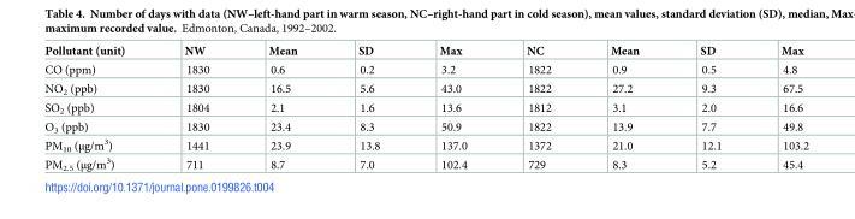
<table><thead><tr><td>Pollutant (unit)</td><td>NW</td><td>Mean</td><td>SD</td><td>Max</td><td>NC</td><td>Mean</td><td>SD</td><td>Max</td></tr></thead><tbody><tr><td>CO (ppm)</td><td>1830</td><td>0.6</td><td>0.2</td><td>3.2</td><td>1822</td><td>0.9</td><td>0.5</td><td>4.8</td></tr><tr><td>NO<sub>2</sub> (ppb)</td><td>1830</td><td>16.5</td><td>5.6</td><td>43.0</td><td>1822</td><td>27.2</td><td>9.3</td><td>67.5</td></tr><tr><td>SO<sub>2</sub> (ppb)</td><td>1804</td><td>2.1</td><td>1.6</td><td>13.6</td><td>1812</td><td>3.1</td><td>2.0</td><td>16.6</td></tr><tr><td>O<sub>3</sub> (ppb)</td><td>1830</td><td>23.4</td><td>8.3</td><td>50.9</td><td>1822</td><td>13.9</td><td>7.7</td><td>49.8</td></tr><tr><td>PM<sub>10</sub> (μg/m<sup>3</sup>)</td><td>1441</td><td>23.9</td><td>13.8</td><td>137.0</td><td>1372</td><td>21.0</td><td>12.1</td><td>103.2</td></tr><tr><td>PM<sub>2.5</sub> (μg/m<sup>3</sup>)</td><td>711</td><td>8.7</td><td>7.0</td><td>102.4</td><td>729</td><td>8.3</td><td>5.2</td><td>45.4</td></tr></tbody></table>